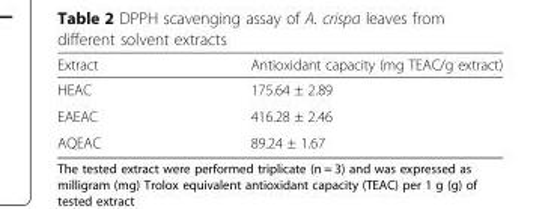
<table><thead><tr><td>Extract</td><td>Antioxidant capacity (mg TEAC/g extract)</td></tr></thead><tbody><tr><td>HEAC</td><td>175.64 ± 2.89</td></tr><tr><td>EAEAC</td><td>416.28 ± 2.46</td></tr><tr><td>AQEAC</td><td>89.24 ± 1.67</td></tr></tbody></table>